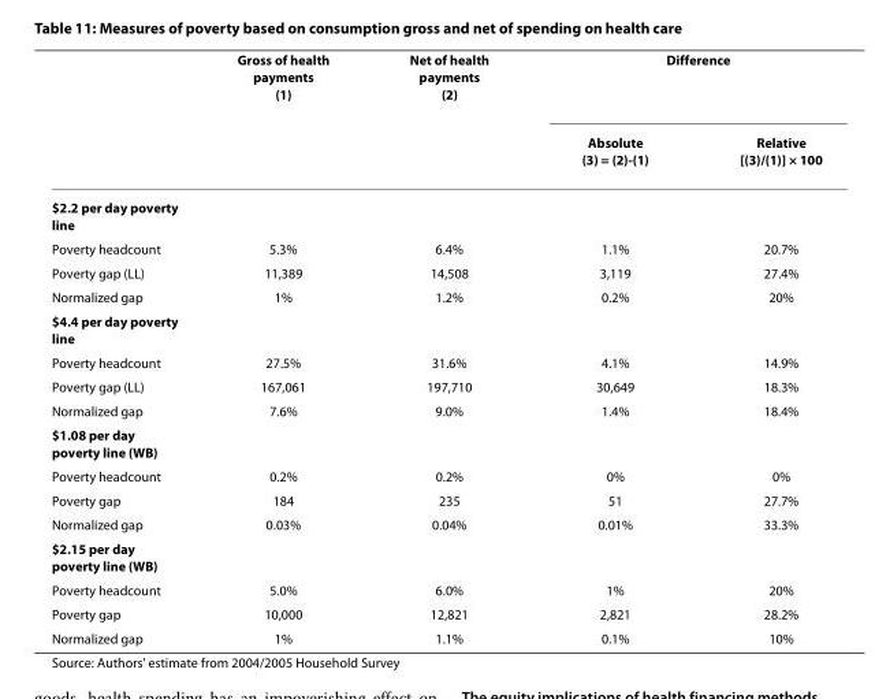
<table><thead><tr><td rowspan="2"></td><td rowspan="2">Gross of health payments (1)</td><td rowspan="2">Net of health payments (2)</td><td colspan="2">Difference</td></tr><tr><td>Absolute (3) = (2)-(1)</td><td>Relative [(3)/(1)] × 100</td></tr></thead><tbody><tr><td colspan="5">$2.2 per day poverty line</td></tr><tr><td>Poverty headcount</td><td>5.3%</td><td>6.4%</td><td>1.1%</td><td>20.7%</td></tr><tr><td>Poverty gap (LL)</td><td>11,389</td><td>14,508</td><td>3,119</td><td>27.4%</td></tr><tr><td>Normalized gap</td><td>1%</td><td>1.2%</td><td>0.2%</td><td>20%</td></tr><tr><td colspan="5">$4.4 per day poverty line</td></tr><tr><td>Poverty headcount</td><td>27.5%</td><td>31.6%</td><td>4.1%</td><td>14.9%</td></tr><tr><td>Poverty gap (LL)</td><td>167,061</td><td>197,710</td><td>30,649</td><td>18.3%</td></tr><tr><td>Normalized gap</td><td>7.6%</td><td>9.0%</td><td>1.4%</td><td>18.4%</td></tr><tr><td colspan="5">$1.08 per day poverty line (WB)</td></tr><tr><td>Poverty headcount</td><td>0.2%</td><td>0.2%</td><td>0%</td><td>0%</td></tr><tr><td>Poverty gap</td><td>184</td><td>235</td><td>51</td><td>27.7%</td></tr><tr><td>Normalized gap</td><td>0.03%</td><td>0.04%</td><td>0.01%</td><td>33.3%</td></tr><tr><td colspan="5">$2.15 per day poverty line (WB)</td></tr><tr><td>Poverty headcount</td><td>5.0%</td><td>6.0%</td><td>1%</td><td>20%</td></tr><tr><td>Poverty gap</td><td>10,000</td><td>12,821</td><td>2,821</td><td>28.2%</td></tr><tr><td>Normalized gap</td><td>1%</td><td>1.1%</td><td>0.1%</td><td>10%</td></tr></tbody></table>